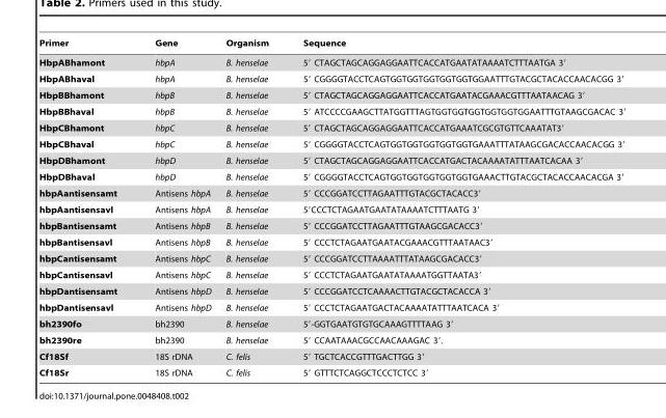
<table><thead><tr><td>Primer</td><td>Gene</td><td>Organism</td><td>Sequence</td></tr></thead><tbody><tr><td>HbpABhamont</td><td>hbpA</td><td>B. henselae</td><td>5′ CTAGCTAGCAGGAGGAATTCACCATGAATATAAAATCTTTAATGA 3′</td></tr><tr><td>HbpABhaval</td><td>hbpA</td><td>B. henselae</td><td>5′ CGGGGTACCTCAGTGGTGGTGGTGGTGGTGGAATTTGTACGCTACACCAACACGG 3′</td></tr><tr><td>HbpBBhamont</td><td>hbpB</td><td>B. henselae</td><td>5′ CTAGCTAGCAGGAGGAATTCACCATGAATACGAAACGTTTAATAACAG 3′</td></tr><tr><td>HbpBBhaval</td><td>hbpB</td><td>B. henselae</td><td>5′ ATCCCCGAAGCTTATGGTTTAGTGGTGGTGGTGGTGGTGGAATTTGTAAGCGACAC 3′</td></tr><tr><td>HbpCBhamont</td><td>hbpC</td><td>B. henselae</td><td>5′ CTAGCTAGCAGGAGGAATTCACCATGAAATCGCGTGTTCAAATAT3′</td></tr><tr><td>HbpCBhaval</td><td>hbpC</td><td>B. henselae</td><td>5′ CGGGGTACCTCAGTGGTGGTGGTGGTGGTGAAATTTATAAGCGACACCAACACGG 3′</td></tr><tr><td>HbpDBhamont</td><td>hbpD</td><td>B. henselae</td><td>5′ CTAGCTAGCAGGAGGAATTCACCATGACTACAAAATATTTAATCACAA 3′</td></tr><tr><td>HbpDBhaval</td><td>hbpD</td><td>B. henselae</td><td>5′ CGGGGTACCTCAGTGGTGGTGGTGGTGGTGAAACTTGTACGCTACACCAACACGA 3′</td></tr><tr><td>hbpAantisensamt</td><td>Antisens hbpA</td><td>B. henselae</td><td>5′ CCCGGATCCTTAGAATTTGTACGCTACACC3′</td></tr><tr><td>hbpAantisensavl</td><td>Antisens hbpA</td><td>B. henselae</td><td>5′CCCTCTAGAATGAATATAAAATCTTTAATG 3′</td></tr><tr><td>hbpBantisensamt</td><td>Antisens hbpB</td><td>B. henselae</td><td>5′ CCCGGATCCTTAGAATTTGTAAGCGACACC3′</td></tr><tr><td>hbpBantisensavl</td><td>Antisens hbpB</td><td>B. henselae</td><td>5′ CCCTCTAGAATGAATACGAAACGTTTAATAAC3′</td></tr><tr><td>hbpCantisensamt</td><td>Antisens hbpC</td><td>B. henselae</td><td>5′ CCCGGATCCTTAAAATTTATAAGCGACACC3′</td></tr><tr><td>hbpCantisensavl</td><td>Antisens hbpC</td><td>B. henselae</td><td>5′ CCCTCTAGAATGAATATAAAATGGTTAATA3′</td></tr><tr><td>hbpDantisensamt</td><td>Antisens hbpD</td><td>B. henselae</td><td>5′ CCCGGATCCTCAAAACTTGTACGCTACACCA 3′</td></tr><tr><td>hbpDantisensavl</td><td>Antisens hbpD</td><td>B. henselae</td><td>5′ CCCTCTAGAATGACTACAAAATATTTAATCACA 3′</td></tr><tr><td>bh2390fo</td><td>bh2390</td><td>B. henselae</td><td>5′-GGTGAATGTGTGCAAAGTTTTAAG 3′</td></tr><tr><td>bh2390re</td><td>bh2390</td><td>B. henselae</td><td>5′ CCAATAAACGCCAACAAAGAC 3′.</td></tr><tr><td>Cf18Sf</td><td>18S rDNA</td><td>C. felis</td><td>5′ TGCTCACCGTTTGACTTGG 3′</td></tr><tr><td>Cf18Sr</td><td>18S rDNA</td><td>C. felis</td><td>5′ GTTTCTCAGGCTCCCTCTCC 3′</td></tr></tbody></table>